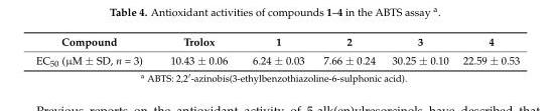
<table><thead><tr><td>Compound</td><td>Trolox</td><td>1</td><td>2</td><td>3</td><td>4</td></tr></thead><tbody><tr><td>EC50 (µM ± SD, n = 3)</td><td>10.43 ± 0.06</td><td>6.24 ± 0.03</td><td>7.66 ± 0.24</td><td>30.25 ± 0.10</td><td>22.59 ± 0.53</td></tr></tbody></table>